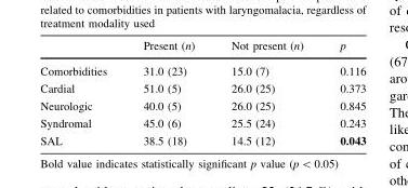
<table><thead><tr><td></td><td>Present (n)</td><td>Not present (n)</td><td>p</td></tr></thead><tbody><tr><td>Comorbidities</td><td>31.0 (23)</td><td>15.0 (7)</td><td>0.116</td></tr><tr><td>Cardial</td><td>51.0 (5)</td><td>26.0 (25)</td><td>0.373</td></tr><tr><td>Neurologic</td><td>40.0 (5)</td><td>26.0 (25)</td><td>0.845</td></tr><tr><td>Syndromal</td><td>45.0 (6)</td><td>25.5 (24)</td><td>0.243</td></tr><tr><td>SAL</td><td>38.5 (18)</td><td>14.5 (12)</td><td>0.043</td></tr></tbody></table>